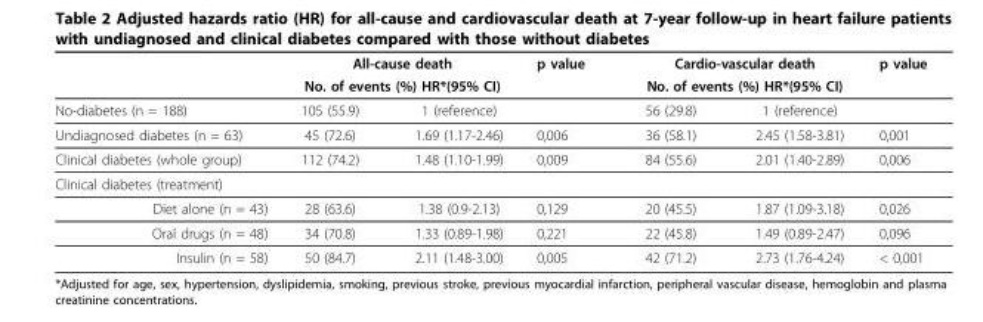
<table><thead><tr><td rowspan="3">No-diabetes (n = 188)</td><td rowspan="2" colspan="2">All-cause death No. of events (%) HR*(95% CI)</td><td rowspan="3">p value</td><td rowspan="2" colspan="2">Cardio-vascular death No. of events (%) HR*(95% CI)</td><td rowspan="3">p value</td></tr><tr></tr><tr><td>105 (55.9)</td><td>1 (reference)</td><td>56 (29.8)</td><td>1 (reference)</td></tr></thead><tbody><tr><td>Undiagnosed diabetes (n = 63)</td><td>45 (72.6)</td><td>1.69 (1.17-2.46)</td><td>0,006</td><td>36 (58.1)</td><td>2.45 (1.58-3.81)</td><td>0,001</td></tr><tr><td>Clinical diabetes (whole group)</td><td>112 (74.2)</td><td>1.48 (1.10-1.99)</td><td>0,009</td><td>84 (55.6)</td><td>2.01 (1.40-2.89)</td><td>0,006</td></tr><tr><td colspan="7">Clinical diabetes (treatment)</td></tr><tr><td>Diet alone (n = 43)</td><td>28 (63.6)</td><td>1.38 (0.9-2.13)</td><td>0,129</td><td>20 (45.5)</td><td>1.87 (1.09-3.18)</td><td>0,026</td></tr><tr><td>Oral drugs (n = 48)</td><td>34 (70.8)</td><td>1.33 (0.89-1.98)</td><td>0,221</td><td>22 (45.8)</td><td>1.49 (0.89-2.47)</td><td>0,096</td></tr><tr><td>Insulin (n = 58)</td><td>50 (84.7)</td><td>2.11 (1.48-3.00)</td><td>0,005</td><td>42 (71.2)</td><td>2.73 (1.76-4.24)</td><td>&lt; 0,001</td></tr></tbody></table>